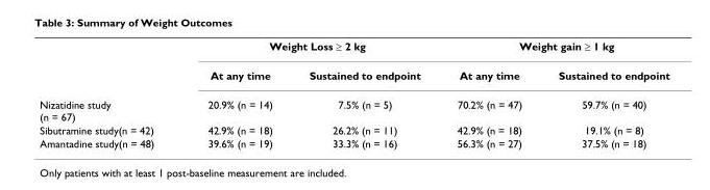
<table><thead><tr><td rowspan="2"></td><td colspan="2">Weight Loss ≥ 2 kg</td><td colspan="2">Weight gain ≥ 1 kg</td></tr><tr><td>At any time</td><td>Sustained to endpoint</td><td>At any time</td><td>Sustained to endpoint</td></tr></thead><tbody><tr><td>Nizatidine study (n = 67)</td><td>20.9% (n = 14)</td><td>7.5% (n = 5)</td><td>70.2% (n = 47)</td><td>59.7% (n = 40)</td></tr><tr><td>Sibutramine study(n = 42)</td><td>42.9% (n = 18)</td><td>26.2% (n = 11)</td><td>42.9% (n = 18)</td><td>19.1% (n = 8)</td></tr><tr><td>Amantadine study(n = 48)</td><td>39.6% (n = 19)</td><td>33.3% (n = 16)</td><td>56.3% (n = 27)</td><td>37.5% (n = 18)</td></tr></tbody></table>